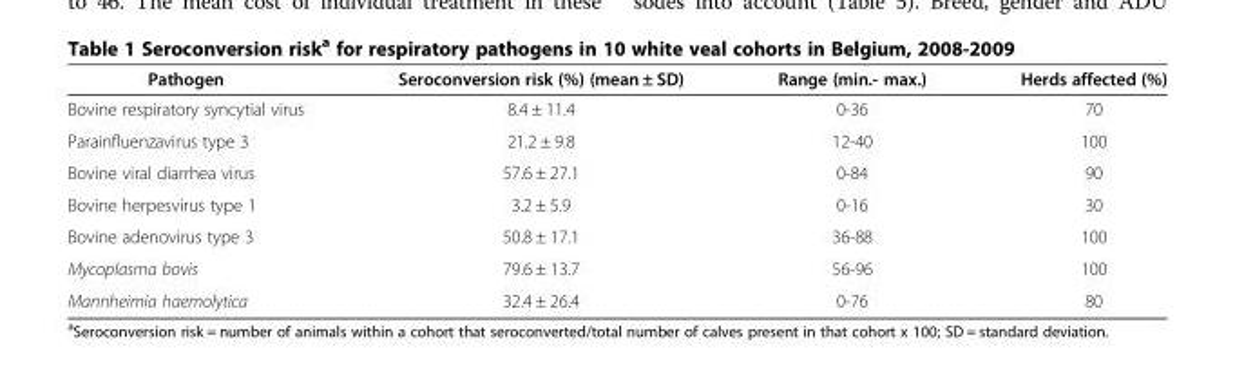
<table><thead><tr><td>Pathogen</td><td>Seroconversion risk (%) (mean ± SD)</td><td>Range (min.- max.)</td><td>Herds affected (%)</td></tr></thead><tbody><tr><td>Bovine respiratory syncytial virus</td><td>8.4 ± 11.4</td><td>0-36</td><td>70</td></tr><tr><td>Parainfluenzavirus type 3</td><td>21.2 ± 9.8</td><td>12-40</td><td>100</td></tr><tr><td>Bovine viral diarrhea virus</td><td>57.6 ± 27.1</td><td>0-84</td><td>90</td></tr><tr><td>Bovine herpesvirus type 1</td><td>3.2 ± 5.9</td><td>0-16</td><td>30</td></tr><tr><td>Bovine adenovirus type 3</td><td>50.8 ± 17.1</td><td>36-88</td><td>100</td></tr><tr><td>Mycoplasma bovis</td><td>79.6 ± 13.7</td><td>56-96</td><td>100</td></tr><tr><td>Mannheimia haemolytica</td><td>32.4 ± 26.4</td><td>0-76</td><td>80</td></tr></tbody></table>